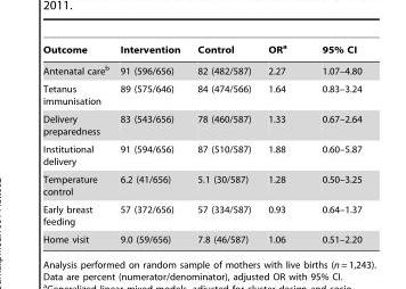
<table><thead><tr><td>Outcome</td><td>Intervention</td><td>Control</td><td>OR<sup>a</sup></td><td>95% CI</td></tr></thead><tbody><tr><td>Antenatal care<sup>b</sup></td><td>91 (596/656)</td><td>82 (482/587)</td><td>2.27</td><td>1.07–4.80</td></tr><tr><td>Tetanus immunisation</td><td>89 (575/646)</td><td>84 (474/566)</td><td>1.64</td><td>0.83–3.24</td></tr><tr><td>Delivery preparedness</td><td>83 (543/656)</td><td>78 (460/587)</td><td>1.33</td><td>0.67–2.64</td></tr><tr><td>Institutional delivery</td><td>91 (594/656)</td><td>87 (510/587)</td><td>1.88</td><td>0.60–5.87</td></tr><tr><td>Temperature control</td><td>6.2 (41/656)</td><td>5.1 (30/587)</td><td>1.28</td><td>0.50–3.25</td></tr><tr><td>Early breast feeding</td><td>57 (372/656)</td><td>57 (334/587)</td><td>0.93</td><td>0.64–1.37</td></tr><tr><td>Home visit</td><td>9.0 (59/656)</td><td>7.8 (46/587)</td><td>1.06</td><td>0.51–2.20</td></tr></tbody></table>